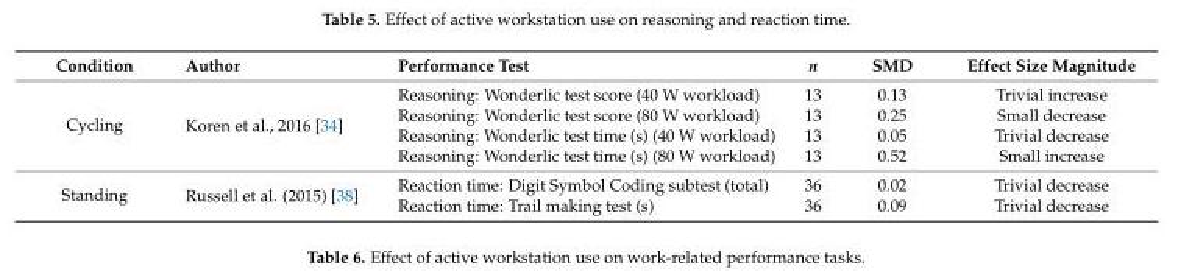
<table><thead><tr><td>Condition</td><td>Author</td><td>Performance Test</td><td>n</td><td>SMD</td><td>Effect Size Magnitude</td></tr></thead><tbody><tr><td rowspan="4">Cycling</td><td rowspan="4">Koren et al., 2016 [34]</td><td>Reasoning: Wonderlic test score (40 W workload)</td><td>13</td><td>0.13</td><td>Trivial increase</td></tr><tr><td>Reasoning: Wonderlic test score (80 W workload)</td><td>13</td><td>0.25</td><td>Small decrease</td></tr><tr><td>Reasoning: Wonderlic test time (s) (40 W workload)</td><td>13</td><td>0.05</td><td>Trivial decrease</td></tr><tr><td>Reasoning: Wonderlic test time (s) (80 W workload)</td><td>13</td><td>0.52</td><td>Small increase</td></tr><tr><td rowspan="2">Standing</td><td rowspan="2">Russell et al. (2015) [38]</td><td>Reaction time: Digit Symbol Coding subtest (total)</td><td>36</td><td>0.02</td><td>Trivial decrease</td></tr><tr><td>Reaction time: Trail making test (s)</td><td>36</td><td>0.09</td><td>Trivial decrease</td></tr></tbody></table>